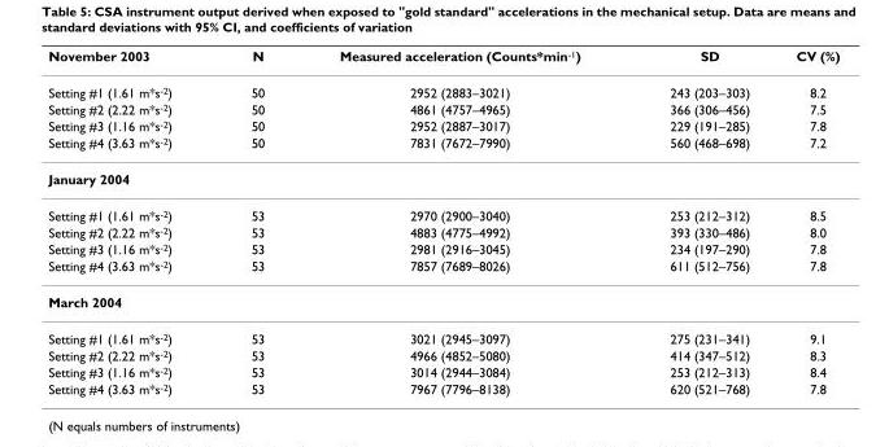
<table><thead><tr><td>November 2003</td><td>N</td><td>Measured acceleration (Counts*min<sup>-1</sup>)</td><td>SD</td><td>CV (%)</td></tr></thead><tbody><tr><td>Setting #1 (1.61 m*s<sup>-2</sup>)</td><td>50</td><td>2952 (2883–3021)</td><td>243 (203–303)</td><td>8.2</td></tr><tr><td>Setting #2 (2.22 m*s<sup>-2</sup>)</td><td>50</td><td>4861 (4757–4965)</td><td>366 (306–456)</td><td>7.5</td></tr><tr><td>Setting #3 (1.16 m*s<sup>-2</sup>)</td><td>50</td><td>2952 (2887–3017)</td><td>229 (191–285)</td><td>7.8</td></tr><tr><td>Setting #4 (3.63 m*s<sup>-2</sup>)</td><td>50</td><td>7831 (7672–7990)</td><td>560 (468–698)</td><td>7.2</td></tr><tr><td colspan="5">January 2004</td></tr><tr><td>Setting #1 (1.61 m*s<sup>-2</sup>)</td><td>53</td><td>2970 (2900–3040)</td><td>253 (212–312)</td><td>8.5</td></tr><tr><td>Setting #2 (2.22 m*s<sup>-2</sup>)</td><td>53</td><td>4883 (4775–4992)</td><td>393 (330–486)</td><td>8.0</td></tr><tr><td>Setting #3 (1.16 m*s<sup>-2</sup>)</td><td>53</td><td>2981 (2916–3045)</td><td>234 (197–290)</td><td>7.8</td></tr><tr><td>Setting #4 (3.63 m*s<sup>-2</sup>)</td><td>53</td><td>7857 (7689–8026)</td><td>611 (512–756)</td><td>7.8</td></tr><tr><td colspan="5">March 2004</td></tr><tr><td>Setting #1 (1.61 m*s<sup>-2</sup>)</td><td>53</td><td>3021 (2945–3097)</td><td>275 (231–341)</td><td>9.1</td></tr><tr><td>Setting #2 (2.22 m*s<sup>-2</sup>)</td><td>53</td><td>4966 (4852–5080)</td><td>414 (347–512)</td><td>8.3</td></tr><tr><td>Setting #3 (1.16 m*s<sup>-2</sup>)</td><td>53</td><td>3014 (2944–3084)</td><td>253 (212–313)</td><td>8.4</td></tr><tr><td>Setting #4 (3.63 m*s<sup>-2</sup>)</td><td>53</td><td>7967 (7796–8138)</td><td>620 (521–768)</td><td>7.8</td></tr></tbody></table>